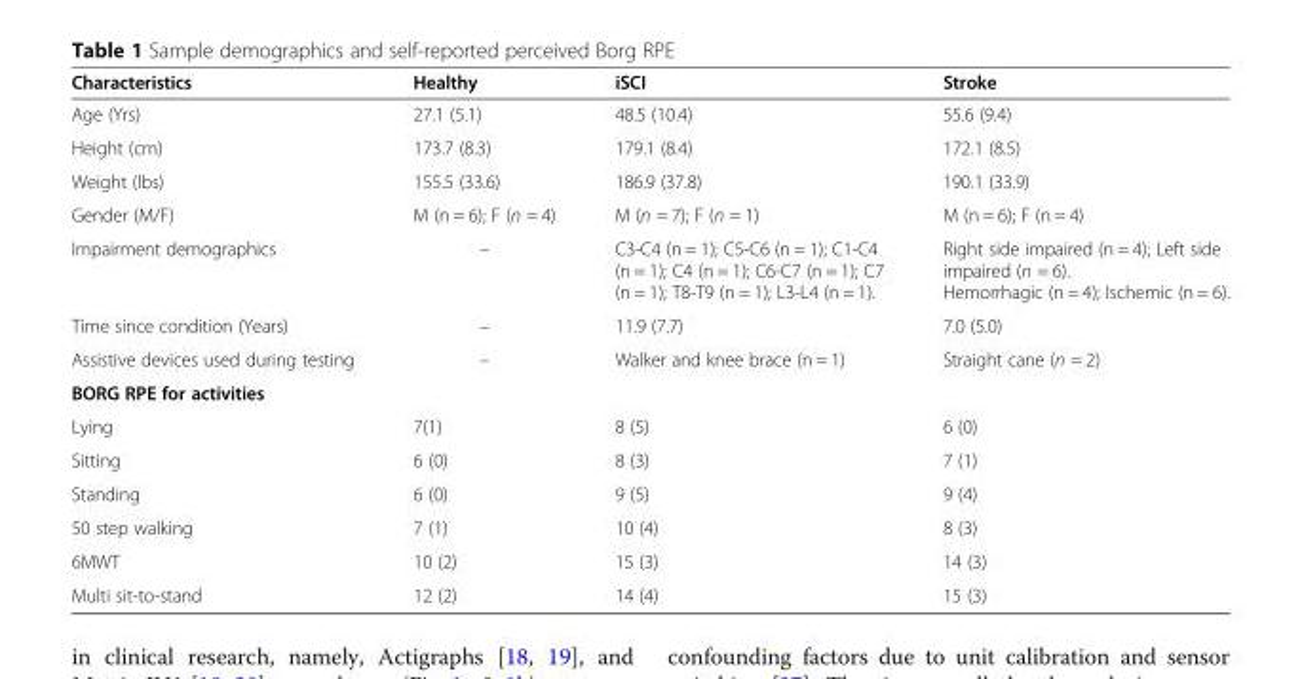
<table><thead><tr><td>Characteristics</td><td>Healthy</td><td>iSCI</td><td>Stroke</td></tr></thead><tbody><tr><td>Age (Yrs)</td><td>27.1 (5.1)</td><td>48.5 (10.4)</td><td>55.6 (9.4)</td></tr><tr><td>Height (cm)</td><td>173.7 (8.3)</td><td>179.1 (8.4)</td><td>172.1 (8.5)</td></tr><tr><td>Weight (lbs)</td><td>155.5 (33.6)</td><td>186.9 (37.8)</td><td>190.1 (33.9)</td></tr><tr><td>Gender (M/F)</td><td>M (n = 6); F (n = 4)</td><td>M (n = 7); F (n = 1)</td><td>M (n = 6); F (n = 4)</td></tr><tr><td>Impairment demographics</td><td>–</td><td>C3-C4 (n = 1); C5-C6 (n = 1); C1-C4 (n = 1); C4 (n = 1); C6-C7 (n = 1); C7 (n = 1); T8-T9 (n = 1); L3-L4 (n = 1).</td><td>Right side impaired (n = 4); Left side impaired (n = 6). Hemorrhagic (n = 4); Ischemic (n = 6).</td></tr><tr><td>Time since condition (Years)</td><td>–</td><td>11.9 (7.7)</td><td>7.0 (5.0)</td></tr><tr><td>Assistive devices used during testing</td><td>–</td><td>Walker and knee brace (n = 1)</td><td>Straight cane (n = 2)</td></tr><tr><td colspan="4">BORG RPE for activities</td></tr><tr><td>Lying</td><td>7(1)</td><td>8 (5)</td><td>6 (0)</td></tr><tr><td>Sitting</td><td>6 (0)</td><td>8 (3)</td><td>7 (1)</td></tr><tr><td>Standing</td><td>6 (0)</td><td>9 (5)</td><td>9 (4)</td></tr><tr><td>50 step walking</td><td>7 (1)</td><td>10 (4)</td><td>8 (3)</td></tr><tr><td>6MWT</td><td>10 (2)</td><td>15 (3)</td><td>14 (3)</td></tr><tr><td>Multi sit-to-stand</td><td>12 (2)</td><td>14 (4)</td><td>15 (3)</td></tr></tbody></table>